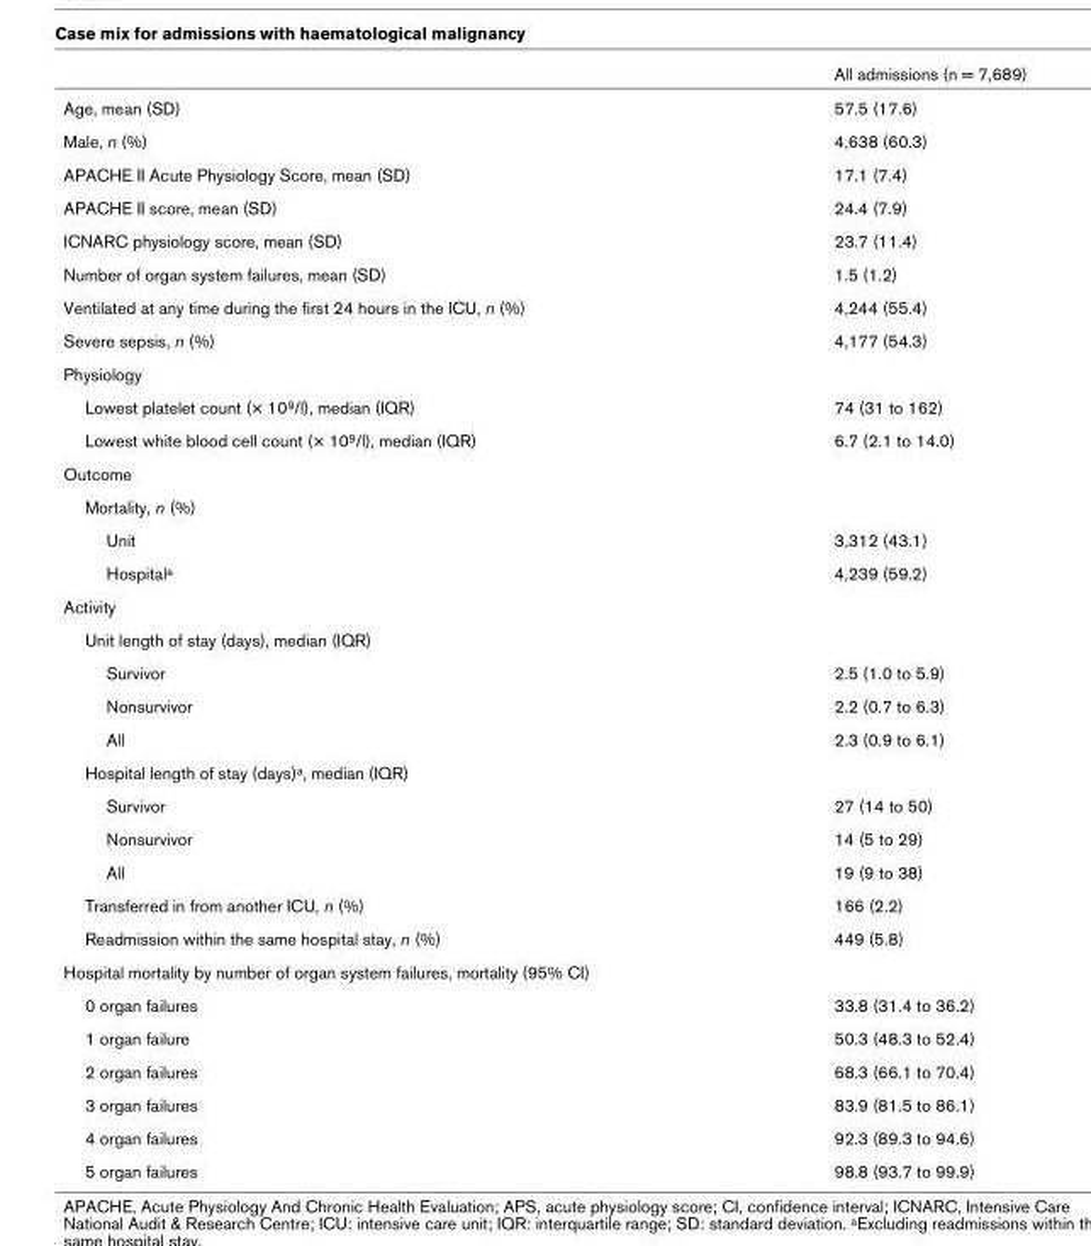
<table><thead><tr><td></td><td>All admissions (n = 7,689)</td></tr></thead><tbody><tr><td>Age, mean (SD)</td><td>57.5 (17.6)</td></tr><tr><td>Male, n (%)</td><td>4,638 (60.3)</td></tr><tr><td>APACHE II Acute Physiology Score, mean (SD)</td><td>17.1 (7.4)</td></tr><tr><td>APACHE II score, mean (SD)</td><td>24.4 (7.9)</td></tr><tr><td>ICNARC physiology score, mean (SD)</td><td>23.7 (11.4)</td></tr><tr><td>Number of organ system failures, mean (SD)</td><td>1.5 (1.2)</td></tr><tr><td>Ventilated at any time during the first 24 hours in the ICU, n (%)</td><td>4,244 (55.4)</td></tr><tr><td>Severe sepsis, n (%)</td><td>4,177 (54.3)</td></tr><tr><td colspan="2">Physiology</td></tr><tr><td>Lowest platelet count (× 10<sup>9</sup>/l), median (IQR)</td><td>74 (31 to 162)</td></tr><tr><td>Lowest white blood cell count (× 10<sup>9</sup>/l), median (IQR)</td><td>6.7 (2.1 to 14.0)</td></tr><tr><td colspan="2">Outcome</td></tr><tr><td colspan="2">Mortality, n (%)</td></tr><tr><td>Unit</td><td>3,312 (43.1)</td></tr><tr><td>Hospital<sup>a</sup></td><td>4,239 (59.2)</td></tr><tr><td colspan="2">Activity</td></tr><tr><td colspan="2">Unit length of stay (days), median (IQR)</td></tr><tr><td>Survivor</td><td>2.5 (1.0 to 5.9)</td></tr><tr><td>Nonsurvivor</td><td>2.2 (0.7 to 6.3)</td></tr><tr><td>All</td><td>2.3 (0.9 to 6.1)</td></tr><tr><td colspan="2">Hospital length of stay (days)<sup>a</sup>, median (IQR)</td></tr><tr><td>Survivor</td><td>27 (14 to 50)</td></tr><tr><td>Nonsurvivor</td><td>14 (5 to 29)</td></tr><tr><td>All</td><td>19 (9 to 38)</td></tr><tr><td>Transferred in from another ICU, n (%)</td><td>166 (2.2)</td></tr><tr><td>Readmission within the same hospital stay, n (%)</td><td>449 (5.8)</td></tr><tr><td colspan="2">Hospital mortality by number of organ system failures, mortality (95% CI)</td></tr><tr><td>0 organ failures</td><td>33.8 (31.4 to 36.2)</td></tr><tr><td>1 organ failure</td><td>50.3 (48.3 to 52.4)</td></tr><tr><td>2 organ failures</td><td>68.3 (66.1 to 70.4)</td></tr><tr><td>3 organ failures</td><td>83.9 (81.5 to 86.1)</td></tr><tr><td>4 organ failures</td><td>92.3 (89.3 to 94.6)</td></tr><tr><td>5 organ failures</td><td>98.8 (93.7 to 99.9)</td></tr></tbody></table>